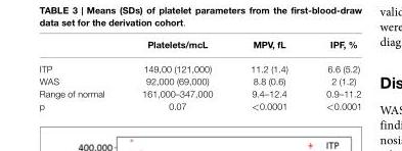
<table><thead><tr><td></td><td>Platelets/mcL</td><td>MPV, fL</td><td>IPF, %</td></tr></thead><tbody><tr><td>ITP</td><td>149,00 (121,000)</td><td>11.2 (1.4)</td><td>6.6 (5.2)</td></tr><tr><td>WAS</td><td>92,000 (69,000)</td><td>8.8 (0.6)</td><td>2 (1.2)</td></tr><tr><td>Range of normal</td><td>161,000–347,000</td><td>9.4–12.4</td><td>0.9–11.2</td></tr><tr><td>p</td><td>0.07</td><td>&lt;0.0001</td><td>&lt;0.0001</td></tr></tbody></table>